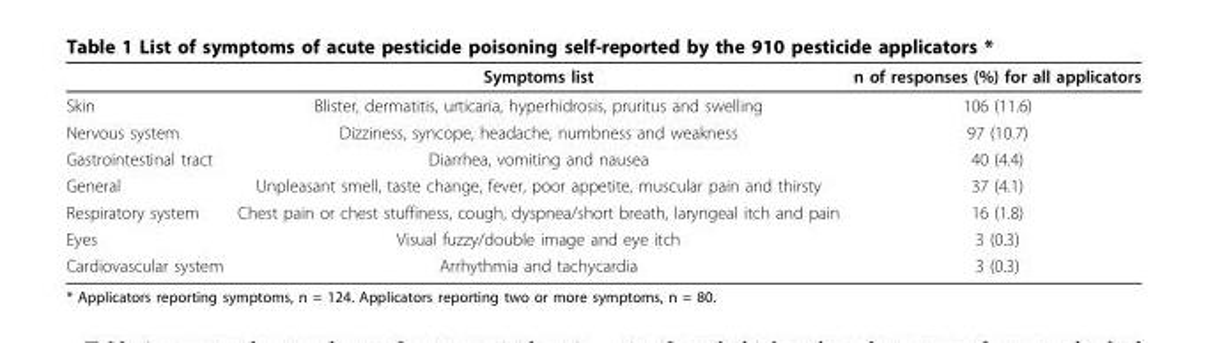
<table><thead><tr><td></td><td>Symptoms list</td><td>n of responses (%) for all applicators</td></tr></thead><tbody><tr><td>Skin</td><td>Blister, dermatitis, urticaria, hyperhidrosis, pruritus and swelling</td><td>106 (11.6)</td></tr><tr><td>Nervous system</td><td>Dizziness, syncope, headache, numbness and weakness</td><td>97 (10.7)</td></tr><tr><td>Gastrointestinal tract</td><td>Diarrhea, vomiting and nausea</td><td>40 (4.4)</td></tr><tr><td>General</td><td>Unpleasant smell, taste change, fever, poor appetite, muscular pain and thirsty</td><td>37 (4.1)</td></tr><tr><td>Respiratory system</td><td>Chest pain or chest stuffiness, cough, dyspnea/short breath, laryngeal itch and pain</td><td>16 (1.8)</td></tr><tr><td>Eyes</td><td>Visual fuzzy/double image and eye itch</td><td>3 (0.3)</td></tr><tr><td>Cardiovascular system</td><td>Arrhythmia and tachycardia</td><td>3 (0.3)</td></tr></tbody></table>